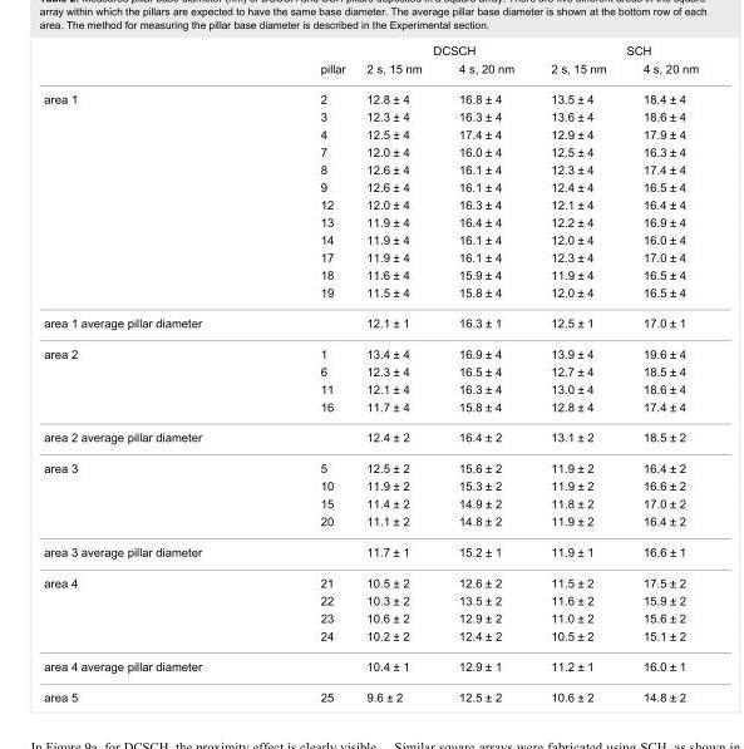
<table><thead><tr><td rowspan="2"></td><td rowspan="2">pillar</td><td colspan="2">DCSCH</td><td colspan="2">SCH</td></tr><tr><td>2 s, 15 nm</td><td>4 s, 20 nm</td><td>2 s, 15 nm</td><td>4 s, 20 nm</td></tr></thead><tbody><tr><td rowspan="12">area 1</td><td>2</td><td>12.8 ± 4</td><td>16.8 ± 4</td><td>13.5 ± 4</td><td>18.4 ± 4</td></tr><tr><td>3</td><td>12.3 ± 4</td><td>16.3 ± 4</td><td>13.6 ± 4</td><td>18.6 ± 4</td></tr><tr><td>4</td><td>12.5 ± 4</td><td>17.4 ± 4</td><td>12.9 ± 4</td><td>17.9 ± 4</td></tr><tr><td>7</td><td>12.0 ± 4</td><td>16.0 ± 4</td><td>12.5 ± 4</td><td>16.3 ± 4</td></tr><tr><td>8</td><td>12.6 ± 4</td><td>16.1 ± 4</td><td>12.3 ± 4</td><td>17.4 ± 4</td></tr><tr><td>9</td><td>12.6 ± 4</td><td>16.1 ± 4</td><td>12.4 ± 4</td><td>16.5 ± 4</td></tr><tr><td>12</td><td>12.0 ± 4</td><td>16.3 ± 4</td><td>12.1 ± 4</td><td>16.4 ± 4</td></tr><tr><td>13</td><td>11.9 ± 4</td><td>16.4 ± 4</td><td>12.2 ± 4</td><td>16.9 ± 4</td></tr><tr><td>14</td><td>11.9 ± 4</td><td>16.1 ± 4</td><td>12.0 ± 4</td><td>16.0 ± 4</td></tr><tr><td>17</td><td>11.9 ± 4</td><td>16.1 ± 4</td><td>12.3 ± 4</td><td>17.0 ± 4</td></tr><tr><td>18</td><td>11.6 ± 4</td><td>15.9 ± 4</td><td>11.9 ± 4</td><td>16.5 ± 4</td></tr><tr><td>19</td><td>11.5 ± 4</td><td>15.8 ± 4</td><td>12.0 ± 4</td><td>16.5 ± 4</td></tr><tr><td>area 1 average pillar diameter</td><td></td><td>12.1 ± 1</td><td>16.3 ± 1</td><td>12.5 ± 1</td><td>17.0 ± 1</td></tr><tr><td rowspan="4">area 2</td><td>1</td><td>13.4 ± 4</td><td>16.9 ± 4</td><td>13.9 ± 4</td><td>19.6 ± 4</td></tr><tr><td>6</td><td>12.3 ± 4</td><td>16.5 ± 4</td><td>12.7 ± 4</td><td>18.5 ± 4</td></tr><tr><td>11</td><td>12.1 ± 4</td><td>16.3 ± 4</td><td>13.0 ± 4</td><td>18.6 ± 4</td></tr><tr><td>16</td><td>11.7 ± 4</td><td>15.8 ± 4</td><td>12.8 ± 4</td><td>17.4 ± 4</td></tr><tr><td>area 2 average pillar diameter</td><td></td><td>12.4 ± 2</td><td>16.4 ± 2</td><td>13.1 ± 2</td><td>18.5 ± 2</td></tr><tr><td rowspan="4">area 3</td><td>5</td><td>12.5 ± 2</td><td>15.6 ± 2</td><td>11.9 ± 2</td><td>16.4 ± 2</td></tr><tr><td>10</td><td>11.9 ± 2</td><td>15.3 ± 2</td><td>11.9 ± 2</td><td>16.6 ± 2</td></tr><tr><td>15</td><td>11.4 ± 2</td><td>14.9 ± 2</td><td>11.8 ± 2</td><td>17.0 ± 2</td></tr><tr><td>20</td><td>11.1 ± 2</td><td>14.8 ± 2</td><td>11.9 ± 2</td><td>16.4 ± 2</td></tr><tr><td>area 3 average pillar diameter</td><td></td><td>11.7 ± 1</td><td>15.2 ± 1</td><td>11.9 ± 1</td><td>16.6 ± 1</td></tr><tr><td rowspan="4">area 4</td><td>21</td><td>10.5 ± 2</td><td>12.6 ± 2</td><td>11.5 ± 2</td><td>17.5 ± 2</td></tr><tr><td>22</td><td>10.3 ± 2</td><td>13.5 ± 2</td><td>11.6 ± 2</td><td>15.9 ± 2</td></tr><tr><td>23</td><td>10.6 ± 2</td><td>12.9 ± 2</td><td>11.0 ± 2</td><td>15.6 ± 2</td></tr><tr><td>24</td><td>10.2 ± 2</td><td>12.4 ± 2</td><td>10.5 ± 2</td><td>15.1 ± 2</td></tr><tr><td>area 4 average pillar diameter</td><td></td><td>10.4 ± 1</td><td>12.9 ± 1</td><td>11.2 ± 1</td><td>16.0 ± 1</td></tr><tr><td>area 5</td><td>25</td><td>9.6 ± 2</td><td>12.5 ± 2</td><td>10.6 ± 2</td><td>14.8 ± 2</td></tr></tbody></table>